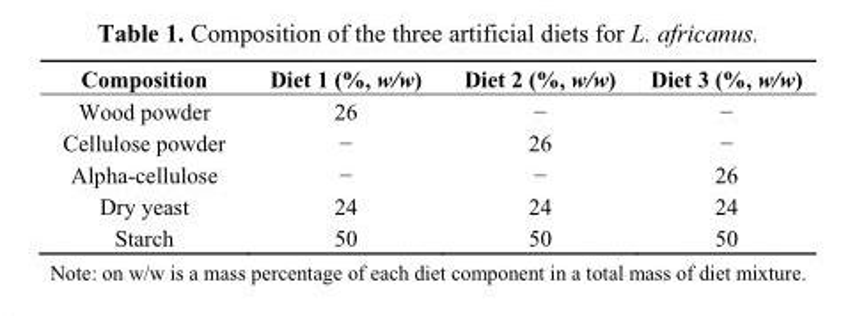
<table><thead><tr><td>Composition</td><td>Diet 1 (%, w/w)</td><td>Diet 2 (%, w/w)</td><td>Diet 3 (%, w/w)</td></tr></thead><tbody><tr><td>Wood powder</td><td>26</td><td>−</td><td>−</td></tr><tr><td>Cellulose powder</td><td>−</td><td>26</td><td>−</td></tr><tr><td>Alpha-cellulose</td><td>−</td><td>−</td><td>26</td></tr><tr><td>Dry yeast</td><td>24</td><td>24</td><td>24</td></tr><tr><td>Starch</td><td>50</td><td>50</td><td>50</td></tr></tbody></table>